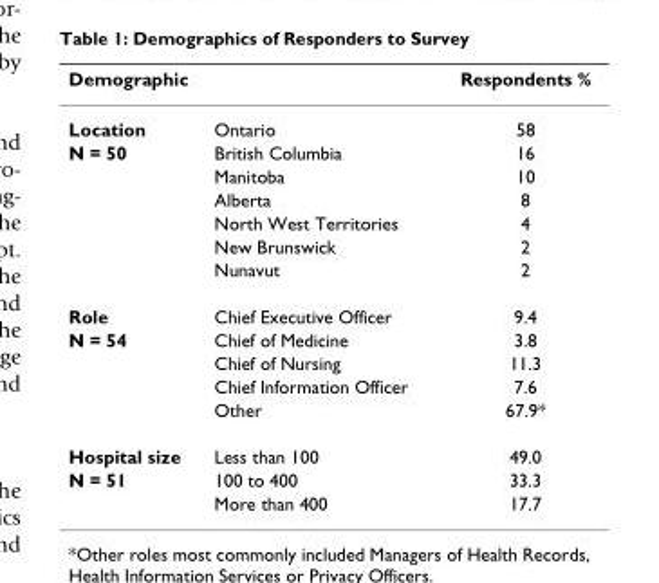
<table><thead><tr><td colspan="2">Demographic</td><td rowspan="2">Respondents % 58</td></tr><tr><td>Location</td><td>Ontario</td></tr></thead><tbody><tr><td rowspan="6">N = 50</td><td>British Columbia</td><td>16</td></tr><tr><td>Manitoba</td><td>10</td></tr><tr><td>Alberta</td><td>8</td></tr><tr><td>North West Territories</td><td>4</td></tr><tr><td>New Brunswick</td><td>2</td></tr><tr><td>Nunavut</td><td>2</td></tr><tr><td>Role</td><td>Chief Executive Officer</td><td>9.4</td></tr><tr><td rowspan="4">N = 54</td><td>Chief of Medicine</td><td>3.8</td></tr><tr><td>Chief of Nursing</td><td>11.3</td></tr><tr><td>Chief Information Officer</td><td>7.6</td></tr><tr><td>Other</td><td>67.9*</td></tr><tr><td>Hospital size</td><td>Less than 100</td><td>49.0</td></tr><tr><td rowspan="2">N = 51</td><td>100 to 400</td><td>33.3</td></tr><tr><td>More than 400</td><td>17.7</td></tr></tbody></table>